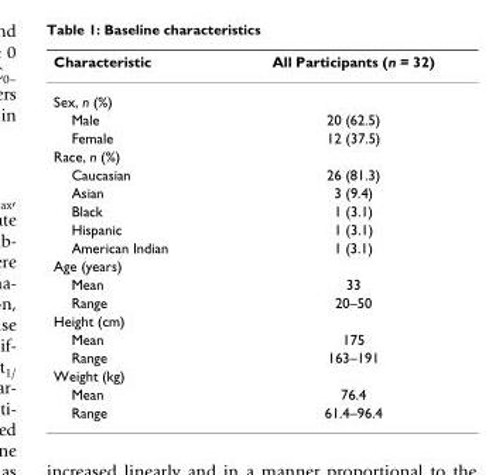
<table><thead><tr><td>Characteristic</td><td>All Participants (n = 32)</td></tr></thead><tbody><tr><td colspan="2">Sex, n (%)</td></tr><tr><td>Male</td><td>20 (62.5)</td></tr><tr><td>Female</td><td>12 (37.5)</td></tr><tr><td colspan="2">Race, n (%)</td></tr><tr><td>Caucasian</td><td>26 (81.3)</td></tr><tr><td>Asian</td><td>3 (9.4)</td></tr><tr><td>Black</td><td>1 (3.1)</td></tr><tr><td>Hispanic</td><td>1 (3.1)</td></tr><tr><td>American Indian</td><td>1 (3.1)</td></tr><tr><td colspan="2">Age (years)</td></tr><tr><td>Mean</td><td>33</td></tr><tr><td>Range</td><td>20–50</td></tr><tr><td colspan="2">Height (cm)</td></tr><tr><td>Mean</td><td>175</td></tr><tr><td>Range</td><td>163–191</td></tr><tr><td colspan="2">Weight (kg)</td></tr><tr><td>Mean</td><td>76.4</td></tr><tr><td>Range</td><td>61.4–96.4</td></tr></tbody></table>